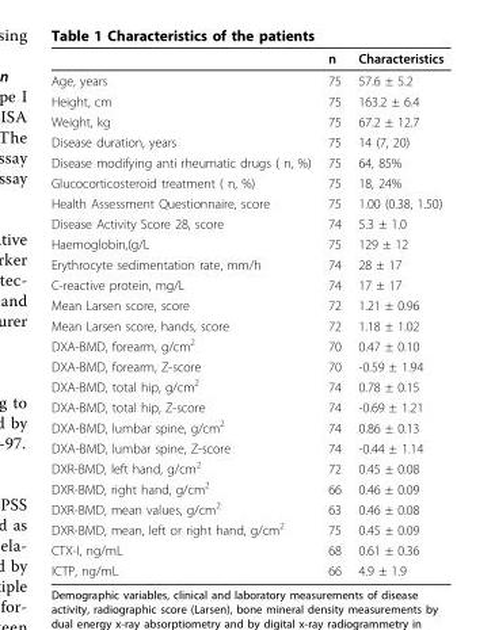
<table><thead><tr><td></td><td>n</td><td>Characteristics</td></tr></thead><tbody><tr><td>Age, years</td><td>75</td><td>57.6 ± 5.2</td></tr><tr><td>Height, cm</td><td>75</td><td>163.2 ± 6.4</td></tr><tr><td>Weight, kg</td><td>75</td><td>67.2 ± 12.7</td></tr><tr><td>Disease duration, years</td><td>75</td><td>14 (7, 20)</td></tr><tr><td>Disease modifying anti rheumatic drugs ( n, %)</td><td>75</td><td>64, 85%</td></tr><tr><td>Glucocorticosteroid treatment ( n, %)</td><td>75</td><td>18, 24%</td></tr><tr><td>Health Assessment Questionnaire, score</td><td>75</td><td>1.00 (0.38, 1.50)</td></tr><tr><td>Disease Activity Score 28, score</td><td>74</td><td>5.3 ± 1.0</td></tr><tr><td>Haemoglobin,(g/L</td><td>75</td><td>129 ± 12</td></tr><tr><td>Erythrocyte sedimentation rate, mm/h</td><td>74</td><td>28 ± 17</td></tr><tr><td>C-reactive protein, mg/L</td><td>74</td><td>17 ± 17</td></tr><tr><td>Mean Larsen score, score</td><td>72</td><td>1.21 ± 0.96</td></tr><tr><td>Mean Larsen score, hands, score</td><td>72</td><td>1.18 ± 1.02</td></tr><tr><td>DXA-BMD, forearm, g/cm<sup>2</sup></td><td>70</td><td>0.47 ± 0.10</td></tr><tr><td>DXA-BMD, forearm, Z-score</td><td>70</td><td>-0.59 ± 1.94</td></tr><tr><td>DXA-BMD, total hip, g/cm<sup>2</sup></td><td>74</td><td>0.78 ± 0.15</td></tr><tr><td>DXA-BMD, total hip, Z-score</td><td>74</td><td>-0.69 ± 1.21</td></tr><tr><td>DXA-BMD, lumbar spine, g/cm<sup>2</sup></td><td>74</td><td>0.86 ± 0.13</td></tr><tr><td>DXA-BMD, lumbar spine, Z-score</td><td>74</td><td>-0.44 ± 1.14</td></tr><tr><td>DXR-BMD, left hand, g/cm<sup>2</sup></td><td>72</td><td>0.45 ± 0.08</td></tr><tr><td>DXR-BMD, right hand, g/cm<sup>2</sup></td><td>66</td><td>0.46 ± 0.09</td></tr><tr><td>DXR-BMD, mean values, g/cm<sup>2</sup></td><td>63</td><td>0.46 ± 0.08</td></tr><tr><td>DXR-BMD, mean, left or right hand, g/cm<sup>2</sup></td><td>75</td><td>0.45 ± 0.09</td></tr><tr><td>CTX-I, ng/mL</td><td>68</td><td>0.61 ± 0.36</td></tr><tr><td>ICTP, ng/mL</td><td>66</td><td>4.9 ± 1.9</td></tr></tbody></table>